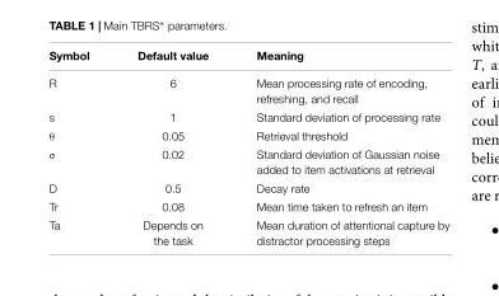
<table><thead><tr><td>Symbol</td><td>Default value</td><td>Meaning</td></tr></thead><tbody><tr><td>R</td><td>6</td><td>Mean processing rate of encoding, refreshing, and recall</td></tr><tr><td>s</td><td>1</td><td>Standard deviation of processing rate</td></tr><tr><td>θ</td><td>0.05</td><td>Retrieval threshold</td></tr><tr><td>σ</td><td>0.02</td><td>Standard deviation of Gaussian noise added to item activations at retrieval</td></tr><tr><td>D</td><td>0.5</td><td>Decay rate</td></tr><tr><td>Tr</td><td>0.08</td><td>Mean time taken to refresh an item</td></tr><tr><td>Ta</td><td>Depends on the task</td><td>Mean duration of attentional capture by distractor processing steps</td></tr></tbody></table>